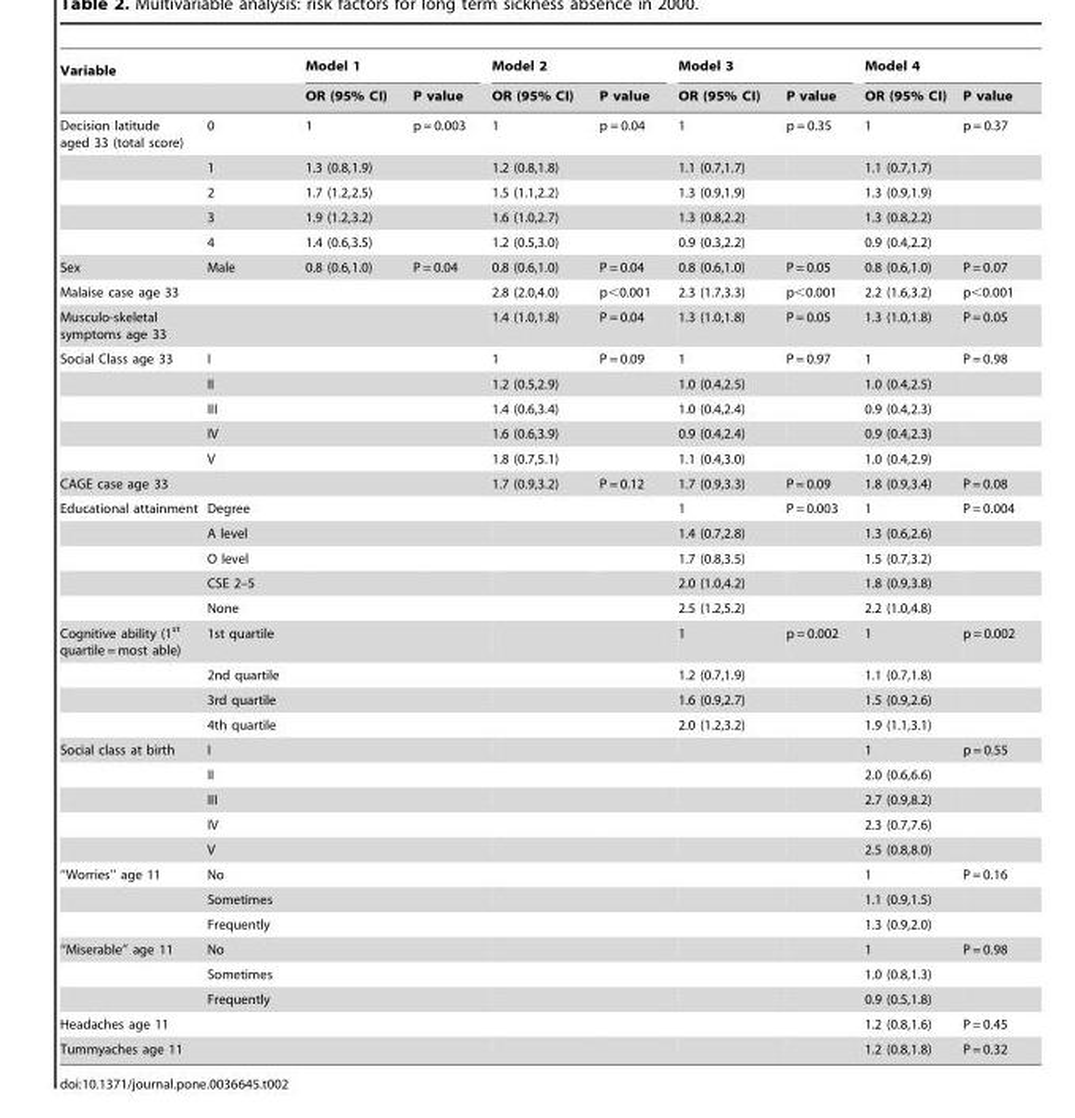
<table><thead><tr><td rowspan="2">Variable</td><td rowspan="2"></td><td colspan="2">Model 1</td><td colspan="2">Model 2</td><td colspan="2">Model 3</td><td colspan="2">Model 4</td></tr><tr><td>OR (95% CI)</td><td>P value</td><td>OR (95% CI)</td><td>P value</td><td>OR (95% CI)</td><td>P value</td><td>OR (95% CI)</td><td>P value</td></tr></thead><tbody><tr><td rowspan="5">Decision latitude aged 33 (total score)</td><td>0</td><td>1</td><td>p = 0.003</td><td>1</td><td>p = 0.04</td><td>1</td><td>p = 0.35</td><td>1</td><td>p = 0.37</td></tr><tr><td>1</td><td>1.3 (0.8,1.9)</td><td></td><td>1.2 (0.8,1.8)</td><td></td><td>1.1 (0.7,1.7)</td><td></td><td>1.1 (0.7,1.7)</td><td></td></tr><tr><td>2</td><td>1.7 (1.2,2.5)</td><td></td><td>1.5 (1.1,2.2)</td><td></td><td>1.3 (0.9,1.9)</td><td></td><td>1.3 (0.9,1.9)</td><td></td></tr><tr><td>3</td><td>1.9 (1.2,3.2)</td><td></td><td>1.6 (1.0,2.7)</td><td></td><td>1.3 (0.8,2.2)</td><td></td><td>1.3 (0.8,2.2)</td><td></td></tr><tr><td>4</td><td>1.4 (0.6,3.5)</td><td></td><td>1.2 (0.5,3.0)</td><td></td><td>0.9 (0.3,2.2)</td><td></td><td>0.9 (0.4,2.2)</td><td></td></tr><tr><td>Sex</td><td>Male</td><td>0.8 (0.6,1.0)</td><td>P = 0.04</td><td>0.8 (0.6,1.0)</td><td>P = 0.04</td><td>0.8 (0.6,1.0)</td><td>P = 0.05</td><td>0.8 (0.6,1.0)</td><td>P = 0.07</td></tr><tr><td>Malaise case age 33</td><td></td><td></td><td></td><td>2.8 (2.0,4.0)</td><td>p&lt;0.001</td><td>2.3 (1.7,3.3)</td><td>p&lt;0.001</td><td>2.2 (1.6,3.2)</td><td>p&lt;0.001</td></tr><tr><td>Musculo-skeletal symptoms age 33</td><td></td><td></td><td></td><td>1.4 (1.0,1.8)</td><td>P = 0.04</td><td>1.3 (1.0,1.8)</td><td>P = 0.05</td><td>1.3 (1.0,1.8)</td><td>P = 0.05</td></tr><tr><td rowspan="5">Social Class age 33</td><td>I</td><td></td><td></td><td>1</td><td>P = 0.09</td><td>1</td><td>P = 0.97</td><td>1</td><td>P = 0.98</td></tr><tr><td>II</td><td></td><td></td><td>1.2 (0.5,2.9)</td><td></td><td>1.0 (0.4,2.5)</td><td></td><td>1.0 (0.4,2.5)</td><td></td></tr><tr><td>III</td><td></td><td></td><td>1.4 (0.6,3.4)</td><td></td><td>1.0 (0.4,2.4)</td><td></td><td>0.9 (0.4,2.3)</td><td></td></tr><tr><td>IV</td><td></td><td></td><td>1.6 (0.6,3.9)</td><td></td><td>0.9 (0.4,2.4)</td><td></td><td>0.9 (0.4,2.3)</td><td></td></tr><tr><td>V</td><td></td><td></td><td>1.8 (0.7,5.1)</td><td></td><td>1.1 (0.4,3.0)</td><td></td><td>1.0 (0.4,2.9)</td><td></td></tr><tr><td>CAGE case age 33</td><td></td><td></td><td></td><td>1.7 (0.9,3.2)</td><td>P = 0.12</td><td>1.7 (0.9,3.3)</td><td>P = 0.09</td><td>1.8 (0.9,3.4)</td><td>P = 0.08</td></tr><tr><td rowspan="5">Educational attainment</td><td>Degree</td><td></td><td></td><td></td><td></td><td>1</td><td>P = 0.003</td><td>1</td><td>P = 0.004</td></tr><tr><td>A level</td><td></td><td></td><td></td><td></td><td>1.4 (0.7,2.8)</td><td></td><td>1.3 (0.6,2.6)</td><td></td></tr><tr><td>O level</td><td></td><td></td><td></td><td></td><td>1.7 (0.8,3.5)</td><td></td><td>1.5 (0.7,3.2)</td><td></td></tr><tr><td>CSE 2–5</td><td></td><td></td><td></td><td></td><td>2.0 (1.0,4.2)</td><td></td><td>1.8 (0.9,3.8)</td><td></td></tr><tr><td>None</td><td></td><td></td><td></td><td></td><td>2.5 (1.2,5.2)</td><td></td><td>2.2 (1.0,4.8)</td><td></td></tr><tr><td rowspan="4">Cognitive ability (1<sup>st</sup> quartile = most able)</td><td>1st quartile</td><td></td><td></td><td></td><td></td><td>1</td><td>p = 0.002</td><td>1</td><td>p = 0.002</td></tr><tr><td>2nd quartile</td><td></td><td></td><td></td><td></td><td>1.2 (0.7,1.9)</td><td></td><td>1.1 (0.7,1.8)</td><td></td></tr><tr><td>3rd quartile</td><td></td><td></td><td></td><td></td><td>1.6 (0.9,2.7)</td><td></td><td>1.5 (0.9,2.6)</td><td></td></tr><tr><td>4th quartile</td><td></td><td></td><td></td><td></td><td>2.0 (1.2,3.2)</td><td></td><td>1.9 (1.1,3.1)</td><td></td></tr><tr><td rowspan="5">Social class at birth</td><td>I</td><td></td><td></td><td></td><td></td><td></td><td></td><td>1</td><td>p = 0.55</td></tr><tr><td>II</td><td></td><td></td><td></td><td></td><td></td><td></td><td>2.0 (0.6,6.6)</td><td></td></tr><tr><td>III</td><td></td><td></td><td></td><td></td><td></td><td></td><td>2.7 (0.9,8.2)</td><td></td></tr><tr><td>IV</td><td></td><td></td><td></td><td></td><td></td><td></td><td>2.3 (0.7,7.6)</td><td></td></tr><tr><td>V</td><td></td><td></td><td></td><td></td><td></td><td></td><td>2.5 (0.8,8.0)</td><td></td></tr><tr><td rowspan="3">‘‘Worries’’ age 11</td><td>No</td><td></td><td></td><td></td><td></td><td></td><td></td><td>1</td><td>P = 0.16</td></tr><tr><td>Sometimes</td><td></td><td></td><td></td><td></td><td></td><td></td><td>1.1 (0.9,1.5)</td><td></td></tr><tr><td>Frequently</td><td></td><td></td><td></td><td></td><td></td><td></td><td>1.3 (0.9,2.0)</td><td></td></tr><tr><td rowspan="3">‘‘Miserable’’ age 11</td><td>No</td><td></td><td></td><td></td><td></td><td></td><td></td><td>1</td><td>P = 0.98</td></tr><tr><td>Sometimes</td><td></td><td></td><td></td><td></td><td></td><td></td><td>1.0 (0.8,1.3)</td><td></td></tr><tr><td>Frequently</td><td></td><td></td><td></td><td></td><td></td><td></td><td>0.9 (0.5,1.8)</td><td></td></tr><tr><td>Headaches age 11</td><td></td><td></td><td></td><td></td><td></td><td></td><td></td><td>1.2 (0.8,1.6)</td><td>P = 0.45</td></tr><tr><td>Tummyaches age 11</td><td></td><td></td><td></td><td></td><td></td><td></td><td></td><td>1.2 (0.8,1.8)</td><td>P = 0.32</td></tr></tbody></table>